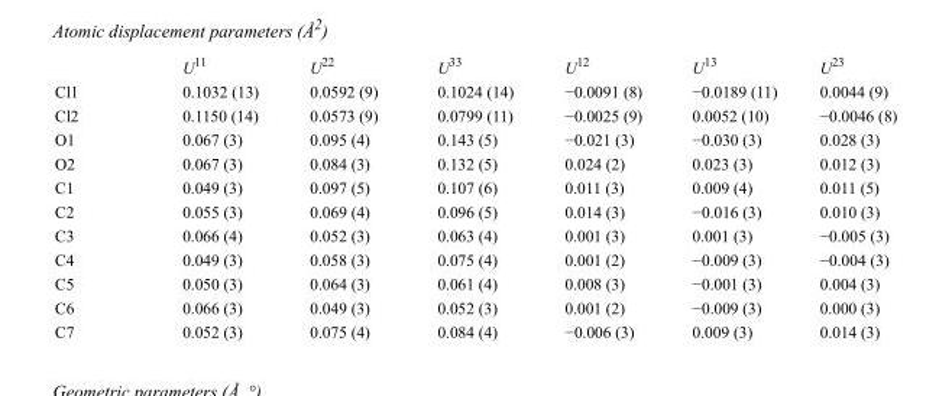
<table><thead><tr><td></td><td>U<sup>11</sup></td><td>U<sup>22</sup></td><td>U<sup>33</sup></td><td>U<sup>12</sup></td><td>U<sup>13</sup></td><td>U<sup>23</sup></td></tr></thead><tbody><tr><td>Cl1</td><td>0.1032 (13)</td><td>0.0592 (9)</td><td>0.1024 (14)</td><td>−0.0091 (8)</td><td>−0.0189 (11)</td><td>0.0044 (9)</td></tr><tr><td>Cl2</td><td>0.1150 (14)</td><td>0.0573 (9)</td><td>0.0799 (11)</td><td>−0.0025 (9)</td><td>0.0052 (10)</td><td>−0.0046 (8)</td></tr><tr><td>O1</td><td>0.067 (3)</td><td>0.095 (4)</td><td>0.143 (5)</td><td>−0.021 (3)</td><td>−0.030 (3)</td><td>0.028 (3)</td></tr><tr><td>O2</td><td>0.067 (3)</td><td>0.084 (3)</td><td>0.132 (5)</td><td>0.024 (2)</td><td>0.023 (3)</td><td>0.012 (3)</td></tr><tr><td>C1</td><td>0.049 (3)</td><td>0.097 (5)</td><td>0.107 (6)</td><td>0.011 (3)</td><td>0.009 (4)</td><td>0.011 (5)</td></tr><tr><td>C2</td><td>0.055 (3)</td><td>0.069 (4)</td><td>0.096 (5)</td><td>0.014 (3)</td><td>−0.016 (3)</td><td>0.010 (3)</td></tr><tr><td>C3</td><td>0.066 (4)</td><td>0.052 (3)</td><td>0.063 (4)</td><td>0.001 (3)</td><td>0.001 (3)</td><td>−0.005 (3)</td></tr><tr><td>C4</td><td>0.049 (3)</td><td>0.058 (3)</td><td>0.075 (4)</td><td>0.001 (2)</td><td>−0.009 (3)</td><td>−0.004 (3)</td></tr><tr><td>C5</td><td>0.050 (3)</td><td>0.064 (3)</td><td>0.061 (4)</td><td>0.008 (3)</td><td>−0.001 (3)</td><td>0.004 (3)</td></tr><tr><td>C6</td><td>0.066 (3)</td><td>0.049 (3)</td><td>0.052 (3)</td><td>0.001 (2)</td><td>−0.009 (3)</td><td>0.000 (3)</td></tr><tr><td>C7</td><td>0.052 (3)</td><td>0.075 (4)</td><td>0.084 (4)</td><td>−0.006 (3)</td><td>0.009 (3)</td><td>0.014 (3)</td></tr></tbody></table>